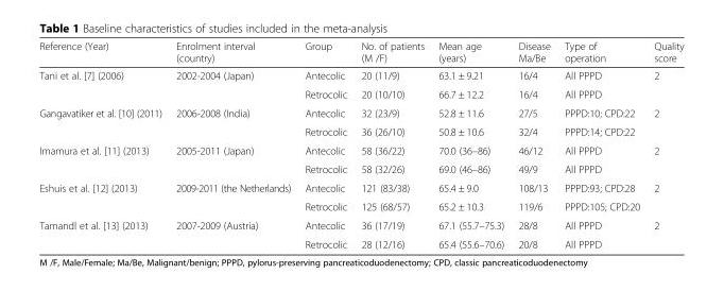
<table><thead><tr><td>Reference (Year)</td><td>Enrolment interval (country)</td><td>Group</td><td>No. of patients (M /F)</td><td>Mean age (years)</td><td>Disease Ma/Be</td><td>Type of operation</td><td>Quality score</td></tr></thead><tbody><tr><td rowspan="2">Tani et al. [7] (2006)</td><td rowspan="2">2002-2004 (Japan)</td><td>Antecolic</td><td>20 (11/9)</td><td>63.1 ± 9.21</td><td>16/4</td><td>All PPPD</td><td rowspan="2">2</td></tr><tr><td>Retrocolic</td><td>20 (10/10)</td><td>66.7 ± 12.2</td><td>16/4</td><td>All PPPD</td></tr><tr><td rowspan="2">Gangavatiker et al. [10] (2011)</td><td rowspan="2">2006-2008 (India)</td><td>Antecolic</td><td>32 (23/9)</td><td>52.8 ± 11.6</td><td>27/5</td><td>PPPD:10; CPD:22</td><td rowspan="2">2</td></tr><tr><td>Retrocolic</td><td>36 (26/10)</td><td>50.8 ± 10.6</td><td>32/4</td><td>PPPD:14; CPD:22</td></tr><tr><td rowspan="2">Imamura et al. [11] (2013)</td><td rowspan="2">2005-2011 (Japan)</td><td>Antecolic</td><td>58 (36/22)</td><td>70.0 (36–86)</td><td>46/12</td><td>All PPPD</td><td rowspan="2">2</td></tr><tr><td>Retrocolic</td><td>58 (32/26)</td><td>69.0 (46–86)</td><td>49/9</td><td>All PPPD</td></tr><tr><td rowspan="2">Eshuis et al. [12] (2013)</td><td rowspan="2">2009-2011 (the Netherlands)</td><td>Antecolic</td><td>121 (83/38)</td><td>65.4 ± 9.0</td><td>108/13</td><td>PPPD:93; CPD:28</td><td rowspan="2">2</td></tr><tr><td>Retrocolic</td><td>125 (68/57)</td><td>65.2 ± 10.3</td><td>119/6</td><td>PPPD:105; CPD:20</td></tr><tr><td rowspan="2">Tamandl et al. [13] (2013)</td><td rowspan="2">2007-2009 (Austria)</td><td>Antecolic</td><td>36 (17/19)</td><td>67.1 (55.7–75.3)</td><td>28/8</td><td>All PPPD</td><td rowspan="2">2</td></tr><tr><td>Retrocolic</td><td>28 (12/16)</td><td>65.4 (55.6–70.6)</td><td>20/8</td><td>All PPPD</td></tr></tbody></table>